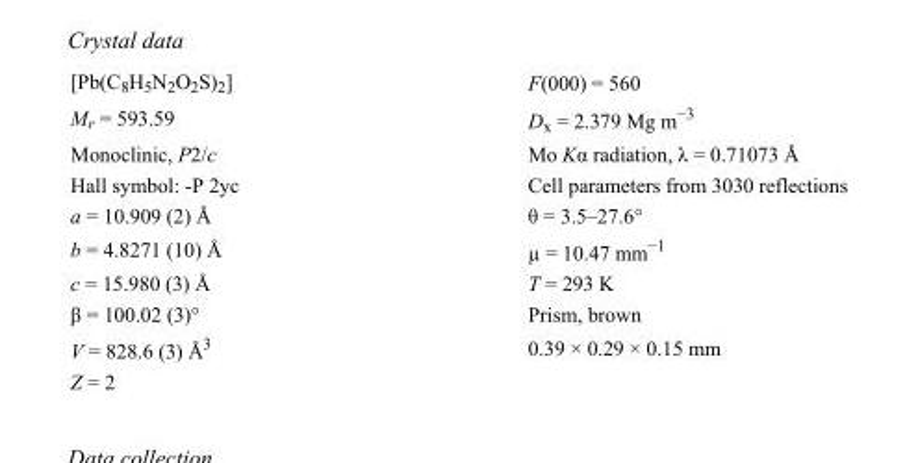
<table><tbody><tr><td>[Pb(C<sub>8</sub>H<sub>5</sub>N<sub>2</sub>O<sub>2</sub>S)<sub>2</sub>]</td><td>F(000) = 560</td></tr><tr><td>M<sub>r</sub> = 593.59</td><td>D<sub>x</sub> = 2.379 Mg m<sup>−3</sup></td></tr><tr><td>Monoclinic, P2/c</td><td>Mo Kα radiation, λ = 0.71073 Å</td></tr><tr><td>Hall symbol: -P 2yc</td><td>Cell parameters from 3030 reflections</td></tr><tr><td>a = 10.909 (2) Å</td><td>θ = 3.5–27.6°</td></tr><tr><td>b = 4.8271 (10) Å</td><td>µ = 10.47 mm<sup>−1</sup></td></tr><tr><td>c = 15.980 (3) Å</td><td>T = 293 K</td></tr><tr><td>β = 100.02 (3)°</td><td>Prism, brown</td></tr><tr><td>V = 828.6 (3) Å<sup>3</sup></td><td>0.39 × 0.29 × 0.15 mm</td></tr><tr><td>Z = 2</td><td></td></tr></tbody></table>